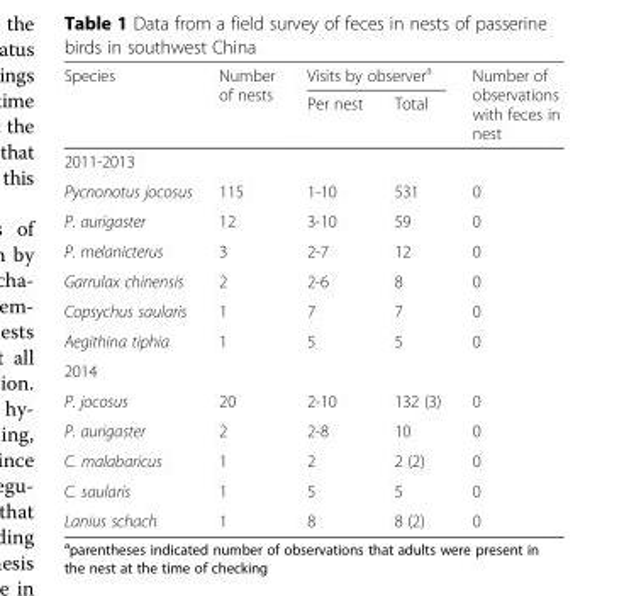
<table><thead><tr><td rowspan="2">Species</td><td rowspan="2">Number of nests</td><td colspan="2">Visits by observer<sup>a</sup></td><td rowspan="2">Number of observations with feces in nest</td></tr><tr><td>Per nest</td><td>Total</td></tr></thead><tbody><tr><td colspan="5">2011-2013</td></tr><tr><td>Pycnonotus jocosus</td><td>115</td><td>1-10</td><td>531</td><td>0</td></tr><tr><td>P. aurigaster</td><td>12</td><td>3-10</td><td>59</td><td>0</td></tr><tr><td>P. melanicterus</td><td>3</td><td>2-7</td><td>12</td><td>0</td></tr><tr><td>Garrulax chinensis</td><td>2</td><td>2-6</td><td>8</td><td>0</td></tr><tr><td>Copsychus saularis</td><td>1</td><td>7</td><td>7</td><td>0</td></tr><tr><td>Aegithina tiphia</td><td>1</td><td>5</td><td>5</td><td>0</td></tr><tr><td colspan="5">2014</td></tr><tr><td>P. jocosus</td><td>20</td><td>2-10</td><td>132 (3)</td><td>0</td></tr><tr><td>P. aurigaster</td><td>2</td><td>2-8</td><td>10</td><td>0</td></tr><tr><td>C. malabaricus</td><td>1</td><td>2</td><td>2 (2)</td><td>0</td></tr><tr><td>C. saularis</td><td>1</td><td>5</td><td>5</td><td>0</td></tr><tr><td>Lanius schach</td><td>1</td><td>8</td><td>8 (2)</td><td>0</td></tr></tbody></table>